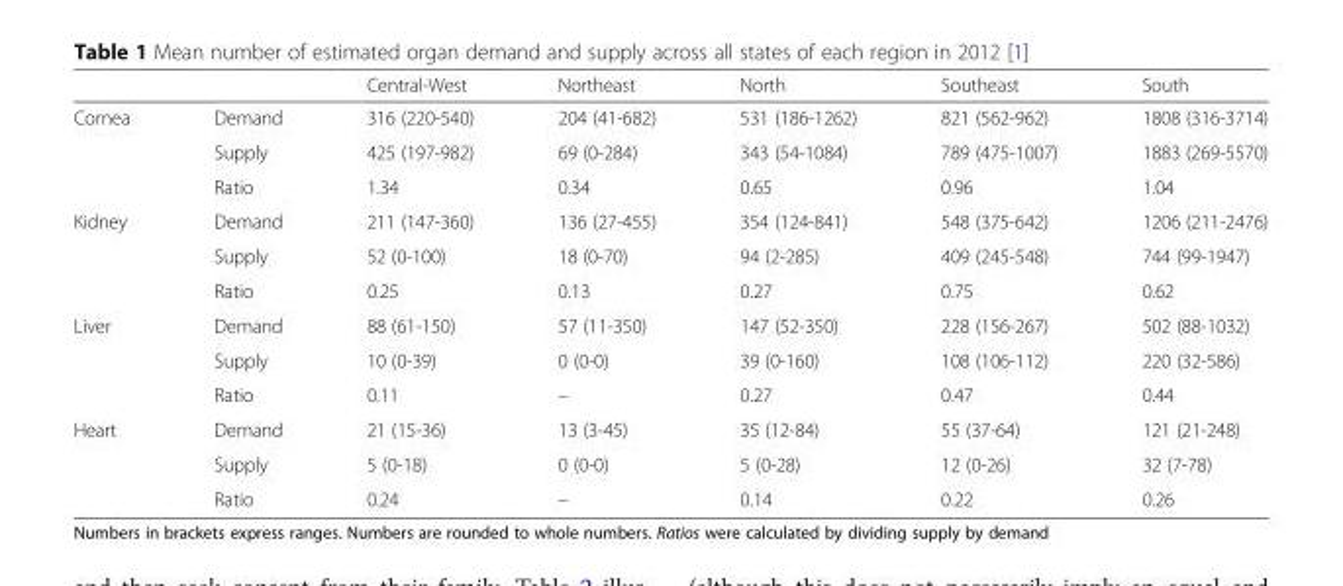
<table><thead><tr><td></td><td></td><td>Central-West</td><td>Northeast</td><td>North</td><td>Southeast</td><td>South</td></tr></thead><tbody><tr><td rowspan="3">Cornea</td><td>Demand</td><td>316 (220-540)</td><td>204 (41-682)</td><td>531 (186-1262)</td><td>821 (562-962)</td><td>1808 (316-3714)</td></tr><tr><td>Supply</td><td>425 (197-982)</td><td>69 (0-284)</td><td>343 (54-1084)</td><td>789 (475-1007)</td><td>1883 (269-5570)</td></tr><tr><td>Ratio</td><td>1.34</td><td>0.34</td><td>0.65</td><td>0.96</td><td>1.04</td></tr><tr><td rowspan="3">Kidney</td><td>Demand</td><td>211 (147-360)</td><td>136 (27-455)</td><td>354 (124-841)</td><td>548 (375-642)</td><td>1206 (211-2476)</td></tr><tr><td>Supply</td><td>52 (0-100)</td><td>18 (0-70)</td><td>94 (2-285)</td><td>409 (245-548)</td><td>744 (99-1947)</td></tr><tr><td>Ratio</td><td>0.25</td><td>0.13</td><td>0.27</td><td>0.75</td><td>0.62</td></tr><tr><td rowspan="3">Liver</td><td>Demand</td><td>88 (61-150)</td><td>57 (11-350)</td><td>147 (52-350)</td><td>228 (156-267)</td><td>502 (88-1032)</td></tr><tr><td>Supply</td><td>10 (0-39)</td><td>0 (0-0)</td><td>39 (0-160)</td><td>108 (106-112)</td><td>220 (32-586)</td></tr><tr><td>Ratio</td><td>0.11</td><td>–</td><td>0.27</td><td>0.47</td><td>0.44</td></tr><tr><td rowspan="3">Heart</td><td>Demand</td><td>21 (15-36)</td><td>13 (3-45)</td><td>35 (12-84)</td><td>55 (37-64)</td><td>121 (21-248)</td></tr><tr><td>Supply</td><td>5 (0-18)</td><td>0 (0-0)</td><td>5 (0-28)</td><td>12 (0-26)</td><td>32 (7-78)</td></tr><tr><td>Ratio</td><td>0.24</td><td>–</td><td>0.14</td><td>0.22</td><td>0.26</td></tr></tbody></table>